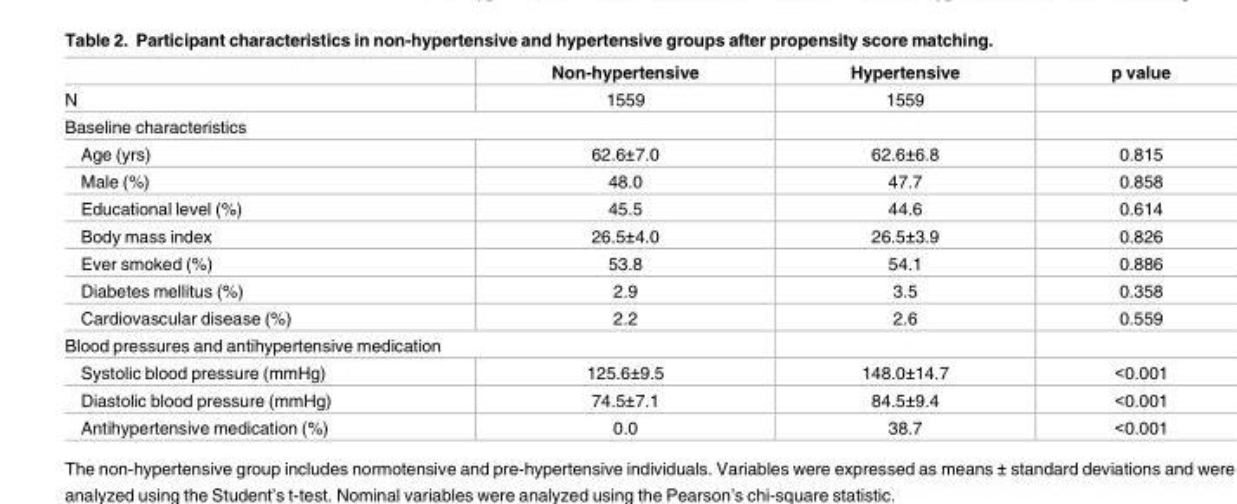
<table><thead><tr><td></td><td>Non-hypertensive</td><td>Hypertensive</td><td>p value</td></tr></thead><tbody><tr><td>N</td><td>1559</td><td>1559</td><td></td></tr><tr><td colspan="4">Baseline characteristics</td></tr><tr><td>Age (yrs)</td><td>62.6±7.0</td><td>62.6±6.8</td><td>0.815</td></tr><tr><td>Male (%)</td><td>48.0</td><td>47.7</td><td>0.858</td></tr><tr><td>Educational level (%)</td><td>45.5</td><td>44.6</td><td>0.614</td></tr><tr><td>Body mass index</td><td>26.5±4.0</td><td>26.5±3.9</td><td>0.826</td></tr><tr><td>Ever smoked (%)</td><td>53.8</td><td>54.1</td><td>0.886</td></tr><tr><td>Diabetes mellitus (%)</td><td>2.9</td><td>3.5</td><td>0.358</td></tr><tr><td>Cardiovascular disease (%)</td><td>2.2</td><td>2.6</td><td>0.559</td></tr><tr><td colspan="4">Blood pressures and antihypertensive medication</td></tr><tr><td>Systolic blood pressure (mmHg)</td><td>125.6±9.5</td><td>148.0±14.7</td><td>&lt;0.001</td></tr><tr><td>Diastolic blood pressure (mmHg)</td><td>74.5±7.1</td><td>84.5±9.4</td><td>&lt;0.001</td></tr><tr><td>Antihypertensive medication (%)</td><td>0.0</td><td>38.7</td><td>&lt;0.001</td></tr></tbody></table>